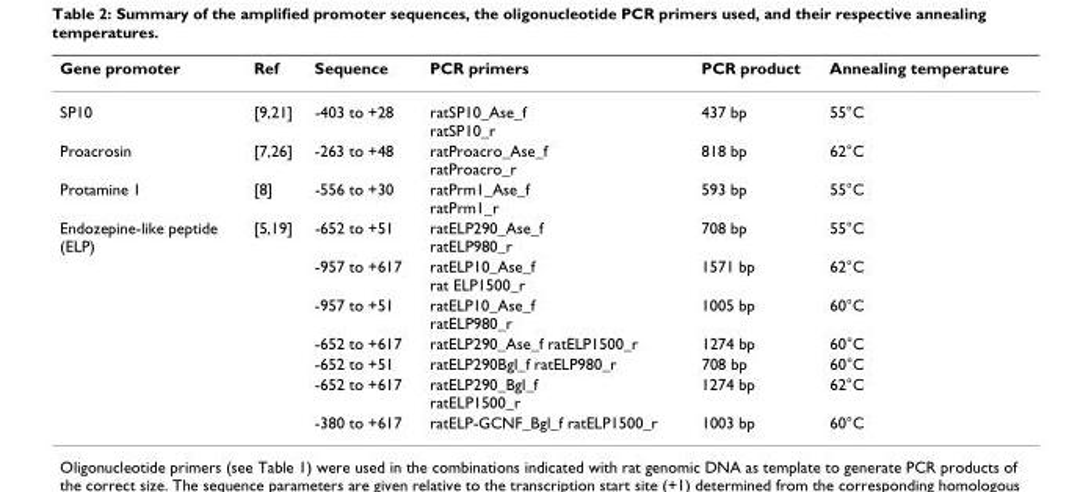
<table><thead><tr><td>Gene promoter</td><td>Ref</td><td>Sequence</td><td>PCR primers</td><td>PCR product</td><td>Annealing temperature</td></tr></thead><tbody><tr><td>SP10</td><td>[9,21]</td><td>-403 to +28</td><td>ratSP10_Ase_f ratSP10_r</td><td>437 bp</td><td>55°C</td></tr><tr><td>Proacrosin</td><td>[7,26]</td><td>-263 to +48</td><td>ratProacro_Ase_f ratProacro_r</td><td>818 bp</td><td>62°C</td></tr><tr><td>Protamine 1</td><td>[8]</td><td>-556 to +30</td><td>ratPrm1_Ase_f ratPrm1_r</td><td>593 bp</td><td>55°C</td></tr><tr><td rowspan="7">Endozepine-like peptide (ELP)</td><td>[5,19]</td><td>-652 to +51</td><td>ratELP290_Ase_f ratELP980_r</td><td>708 bp</td><td>55°C</td></tr><tr><td></td><td>-957 to +617</td><td>ratELP10_Ase_f rat ELP1500_r</td><td>1571 bp</td><td>62°C</td></tr><tr><td></td><td>-957 to +51</td><td>ratELP10_Ase_f ratELP980_r</td><td>1005 bp</td><td>60°C</td></tr><tr><td></td><td>-652 to +617</td><td>ratELP290_Ase_f ratELP1500_r</td><td>1274 bp</td><td>60°C</td></tr><tr><td></td><td>-652 to +51</td><td>ratELP290Bgl_f ratELP980_r</td><td>708 bp</td><td>60°C</td></tr><tr><td></td><td>-652 to +617</td><td>ratELP290_Bgl_f ratELP1500_r</td><td>1274 bp</td><td>62°C</td></tr><tr><td></td><td>-380 to +617</td><td>ratELP-GCNF_Bgl_f ratELP1500_r</td><td>1003 bp</td><td>60°C</td></tr></tbody></table>